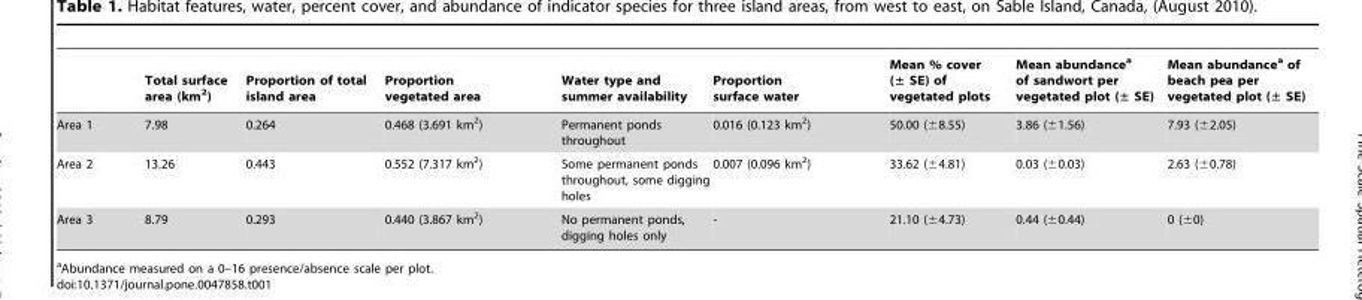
<table><thead><tr><td></td><td>Total surface area (km<sup>2</sup>)</td><td>Proportion of total island area</td><td>Proportion vegetated area</td><td>Water type and summer availability</td><td>Proportion surface water</td><td>Mean % cover (± SE) of vegetated plots</td><td>Mean abundance<sup>a</sup> of sandwort per vegetated plot (± SE)</td><td>Mean abundance<sup>a</sup> of beach pea per vegetated plot (± SE)</td></tr></thead><tbody><tr><td>Area 1</td><td>7.98</td><td>0.264</td><td>0.468 (3.691 km<sup>2</sup>)</td><td>Permanent ponds throughout</td><td>0.016 (0.123 km<sup>2</sup>)</td><td>50.00 (±8.55)</td><td>3.86 (±1.56)</td><td>7.93 (±2.05)</td></tr><tr><td>Area 2</td><td>13.26</td><td>0.443</td><td>0.552 (7.317 km<sup>2</sup>)</td><td>Some permanent ponds throughout, some digging holes</td><td>0.007 (0.096 km<sup>2</sup>)</td><td>33.62 (±4.81)</td><td>0.03 (±0.03)</td><td>2.63 (±0.78)</td></tr><tr><td>Area 3</td><td>8.79</td><td>0.293</td><td>0.440 (3.867 km<sup>2</sup>)</td><td>No permanent ponds, digging holes only</td><td>-</td><td>21.10 (±4.73)</td><td>0.44 (±0.44)</td><td>0 (±0)</td></tr></tbody></table>